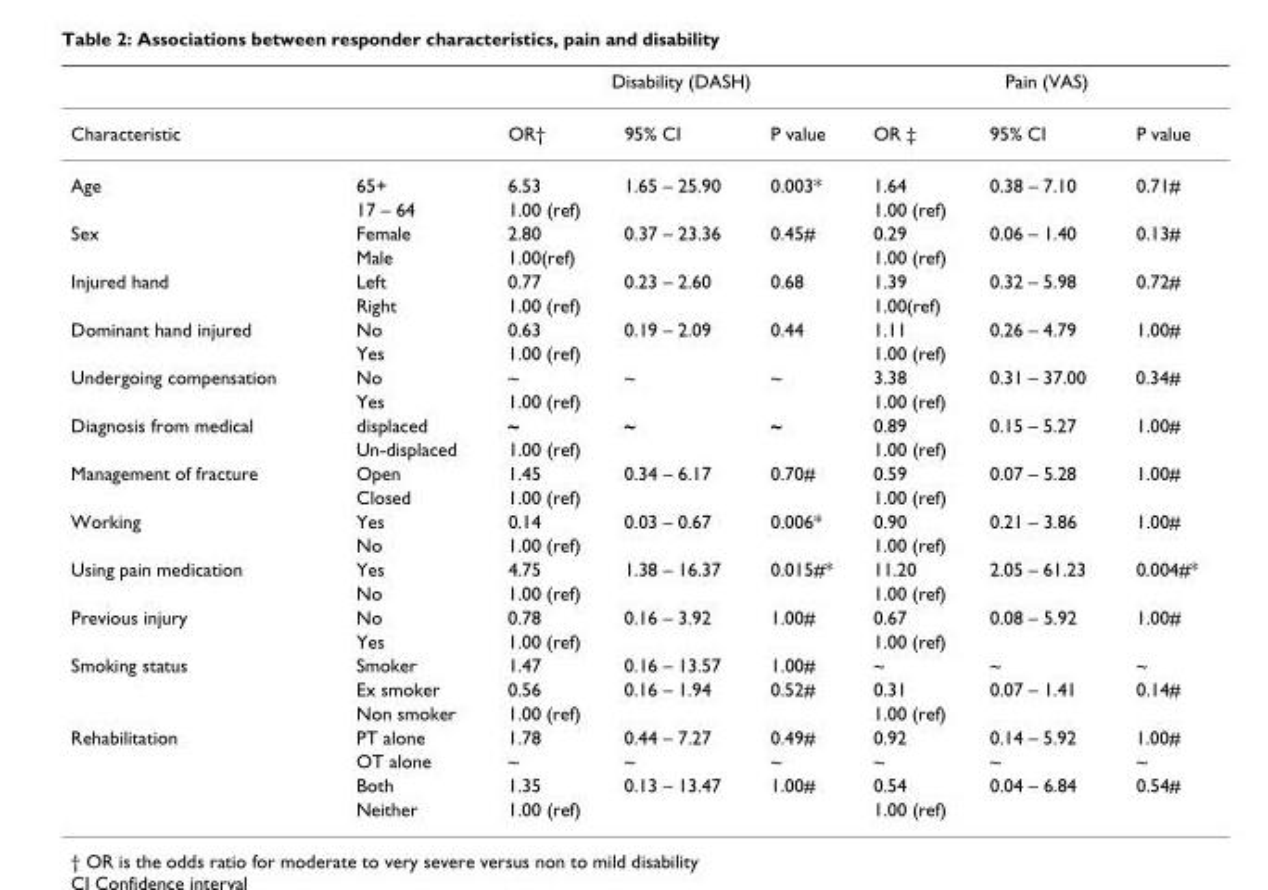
<table><thead><tr><td></td><td></td><td colspan="3">Disability (DASH)</td><td colspan="3">Pain (VAS)</td></tr><tr><td colspan="2">Characteristic</td><td>OR†</td><td>95% CI</td><td>P value</td><td>OR ‡</td><td>95% CI</td><td>P value</td></tr></thead><tbody><tr><td rowspan="2">Age</td><td>65+</td><td>6.53</td><td>1.65 – 25.90</td><td>0.003*</td><td>1.64</td><td>0.38 – 7.10</td><td>0.71#</td></tr><tr><td>17 – 64</td><td>1.00 (ref)</td><td></td><td></td><td>1.00 (ref)</td><td></td><td></td></tr><tr><td rowspan="2">Sex</td><td>Female</td><td>2.80</td><td>0.37 – 23.36</td><td>0.45#</td><td>0.29</td><td>0.06 – 1.40</td><td>0.13#</td></tr><tr><td>Male</td><td>1.00(ref)</td><td></td><td></td><td>1.00 (ref)</td><td></td><td></td></tr><tr><td rowspan="2">Injured hand</td><td>Left</td><td>0.77</td><td>0.23 – 2.60</td><td>0.68</td><td>1.39</td><td>0.32 – 5.98</td><td>0.72#</td></tr><tr><td>Right</td><td>1.00 (ref)</td><td></td><td></td><td>1.00(ref)</td><td></td><td></td></tr><tr><td rowspan="2">Dominant hand injured</td><td>No</td><td>0.63</td><td>0.19 – 2.09</td><td>0.44</td><td>1.11</td><td>0.26 – 4.79</td><td>1.00#</td></tr><tr><td>Yes</td><td>1.00 (ref)</td><td></td><td></td><td>1.00 (ref)</td><td></td><td></td></tr><tr><td rowspan="2">Undergoing compensation</td><td>No</td><td>~</td><td>~</td><td>~</td><td>3.38</td><td>0.31 – 37.00</td><td>0.34#</td></tr><tr><td>Yes</td><td>1.00 (ref)</td><td></td><td></td><td>1.00 (ref)</td><td></td><td></td></tr><tr><td rowspan="2">Diagnosis from medical</td><td>displaced</td><td>~</td><td>~</td><td>~</td><td>0.89</td><td>0.15 – 5.27</td><td>1.00#</td></tr><tr><td>Un-displaced</td><td>1.00 (ref)</td><td></td><td></td><td>1.00 (ref)</td><td></td><td></td></tr><tr><td rowspan="2">Management of fracture</td><td>Open</td><td>1.45</td><td>0.34 – 6.17</td><td>0.70#</td><td>0.59</td><td>0.07 – 5.28</td><td>1.00#</td></tr><tr><td>Closed</td><td>1.00 (ref)</td><td></td><td></td><td>1.00 (ref)</td><td></td><td></td></tr><tr><td rowspan="2">Working</td><td>Yes</td><td>0.14</td><td>0.03 – 0.67</td><td>0.006*</td><td>0.90</td><td>0.21 – 3.86</td><td>1.00#</td></tr><tr><td>No</td><td>1.00 (ref)</td><td></td><td></td><td>1.00 (ref)</td><td></td><td></td></tr><tr><td rowspan="2">Using pain medication</td><td>Yes</td><td>4.75</td><td>1.38 – 16.37</td><td>0.015#*</td><td>11.20</td><td>2.05 – 61.23</td><td>0.004#*</td></tr><tr><td>No</td><td>1.00 (ref)</td><td></td><td></td><td>1.00 (ref)</td><td></td><td></td></tr><tr><td rowspan="2">Previous injury</td><td>No</td><td>0.78</td><td>0.16 – 3.92</td><td>1.00#</td><td>0.67</td><td>0.08 – 5.92</td><td>1.00#</td></tr><tr><td>Yes</td><td>1.00 (ref)</td><td></td><td></td><td>1.00 (ref)</td><td></td><td></td></tr><tr><td rowspan="3">Smoking status</td><td>Smoker</td><td>1.47</td><td>0.16 – 13.57</td><td>1.00#</td><td>~</td><td>~</td><td>~</td></tr><tr><td>Ex smoker</td><td>0.56</td><td>0.16 – 1.94</td><td>0.52#</td><td>0.31</td><td>0.07 – 1.41</td><td>0.14#</td></tr><tr><td>Non smoker</td><td>1.00 (ref)</td><td></td><td></td><td>1.00 (ref)</td><td></td><td></td></tr><tr><td rowspan="4">Rehabilitation</td><td>PT alone</td><td>1.78</td><td>0.44 – 7.27</td><td>0.49#</td><td>0.92</td><td>0.14 – 5.92</td><td>1.00#</td></tr><tr><td>OT alone</td><td>~</td><td>~</td><td>~</td><td>~</td><td>~</td><td>~</td></tr><tr><td>Both</td><td>1.35</td><td>0.13 – 13.47</td><td>1.00#</td><td>0.54</td><td>0.04 – 6.84</td><td>0.54#</td></tr><tr><td>Neither</td><td>1.00 (ref)</td><td></td><td></td><td>1.00 (ref)</td><td></td><td></td></tr></tbody></table>